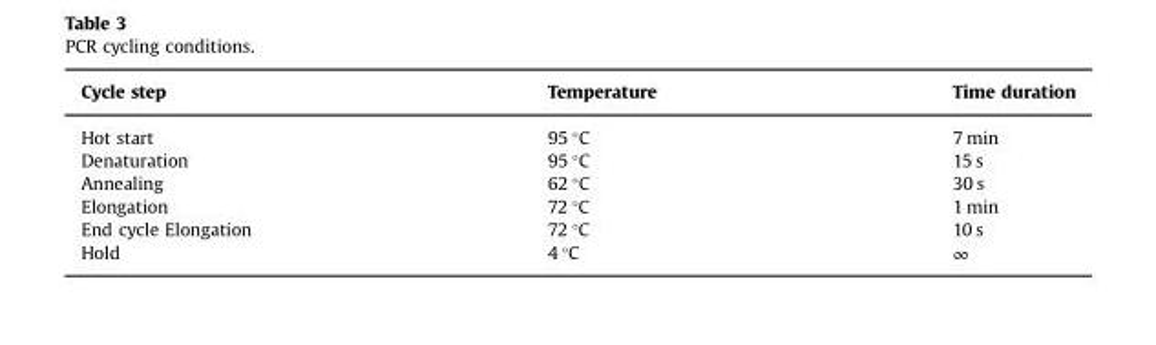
<table><thead><tr><td>Cycle step</td><td>Temperature</td><td>Time duration</td></tr></thead><tbody><tr><td>Hot start</td><td>95 °C</td><td>7 min</td></tr><tr><td>Denaturation</td><td>95 °C</td><td>15 s</td></tr><tr><td>Annealing</td><td>62 °C</td><td>30 s</td></tr><tr><td>Elongation</td><td>72 °C</td><td>1 min</td></tr><tr><td>End cycle Elongation</td><td>72 °C</td><td>10 s</td></tr><tr><td>Hold</td><td>4 °C</td><td>∞</td></tr></tbody></table>